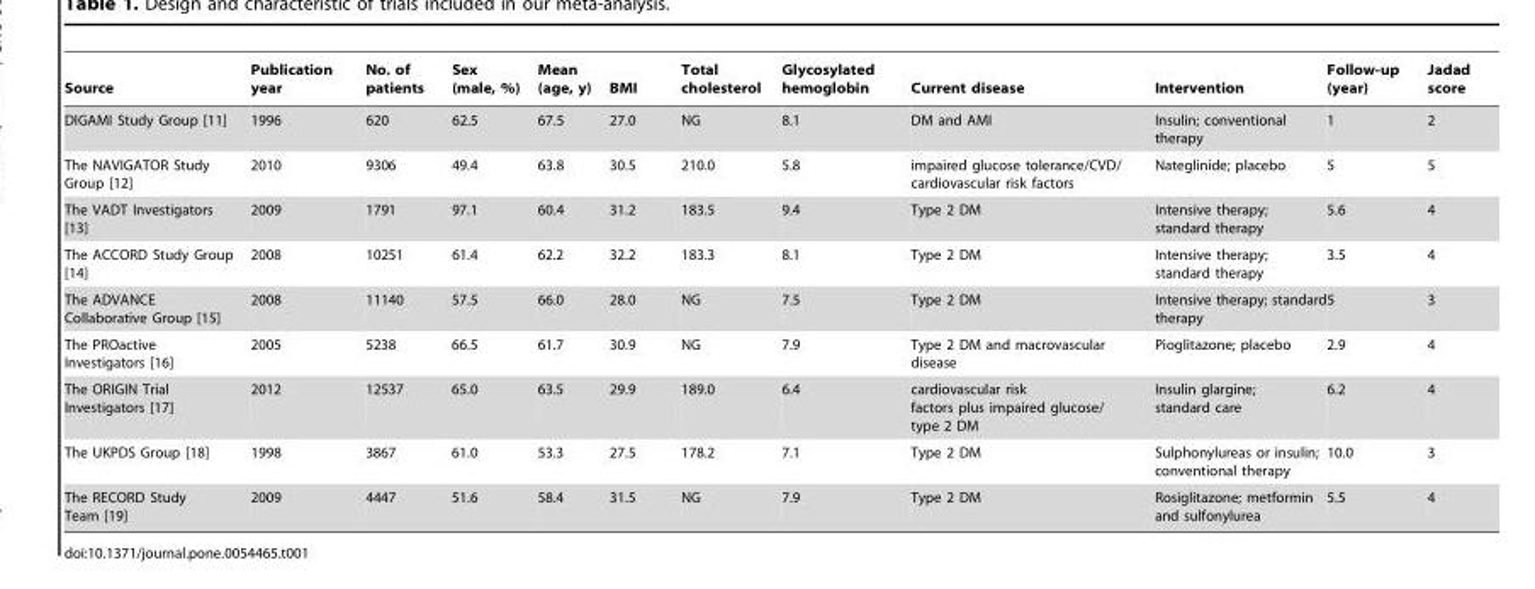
<table><thead><tr><td>Source</td><td>Publication year</td><td>No. of patients</td><td>Sex (male, %)</td><td>Mean (age, y)</td><td>BMI</td><td>Total cholesterol</td><td>Glycosylated hemoglobin</td><td>Current disease</td><td>Intervention</td><td>Follow-up (year)</td><td>Jadad score</td></tr></thead><tbody><tr><td>DIGAMI Study Group [11]</td><td>1996</td><td>620</td><td>62.5</td><td>67.5</td><td>27.0</td><td>NG</td><td>8.1</td><td>DM and AMI</td><td>Insulin; conventional therapy</td><td>1</td><td>2</td></tr><tr><td>The NAVIGATOR Study Group [12]</td><td>2010</td><td>9306</td><td>49.4</td><td>63.8</td><td>30.5</td><td>210.0</td><td>5.8</td><td>impaired glucose tolerance/CVD/ cardiovascular risk factors</td><td>Nateglinide; placebo</td><td>5</td><td>5</td></tr><tr><td>The VADT Investigators [13]</td><td>2009</td><td>1791</td><td>97.1</td><td>60.4</td><td>31.2</td><td>183.5</td><td>9.4</td><td>Type 2 DM</td><td>Intensive therapy; standard therapy</td><td>5.6</td><td>4</td></tr><tr><td>The ACCORD Study Group [14]</td><td>2008</td><td>10251</td><td>61.4</td><td>62.2</td><td>32.2</td><td>183.3</td><td>8.1</td><td>Type 2 DM</td><td>Intensive therapy; standard therapy</td><td>3.5</td><td>4</td></tr><tr><td>The ADVANCE Collaborative Group [15]</td><td>2008</td><td>11140</td><td>57.5</td><td>66.0</td><td>28.0</td><td>NG</td><td>7.5</td><td>Type 2 DM</td><td>Intensive therapy; standard therapy</td><td>5</td><td>3</td></tr><tr><td>The PROactive Investigators [16]</td><td>2005</td><td>5238</td><td>66.5</td><td>61.7</td><td>30.9</td><td>NG</td><td>7.9</td><td>Type 2 DM and macrovascular disease</td><td>Pioglitazone; placebo</td><td>2.9</td><td>4</td></tr><tr><td>The ORIGIN Trial Investigators [17]</td><td>2012</td><td>12537</td><td>65.0</td><td>63.5</td><td>29.9</td><td>189.0</td><td>6.4</td><td>cardiovascular risk factors plus impaired glucose/ type 2 DM</td><td>Insulin glargine; standard care</td><td>6.2</td><td>4</td></tr><tr><td>The UKPDS Group [18]</td><td>1998</td><td>3867</td><td>61.0</td><td>53.3</td><td>27.5</td><td>178.2</td><td>7.1</td><td>Type 2 DM</td><td>Sulphonylureas or insulin; conventional therapy</td><td>10.0</td><td>3</td></tr><tr><td>The RECORD Study Team [19]</td><td>2009</td><td>4447</td><td>51.6</td><td>58.4</td><td>31.5</td><td>NG</td><td>7.9</td><td>Type 2 DM</td><td>Rosiglitazone; metformin and sulfonylurea</td><td>5.5</td><td>4</td></tr></tbody></table>